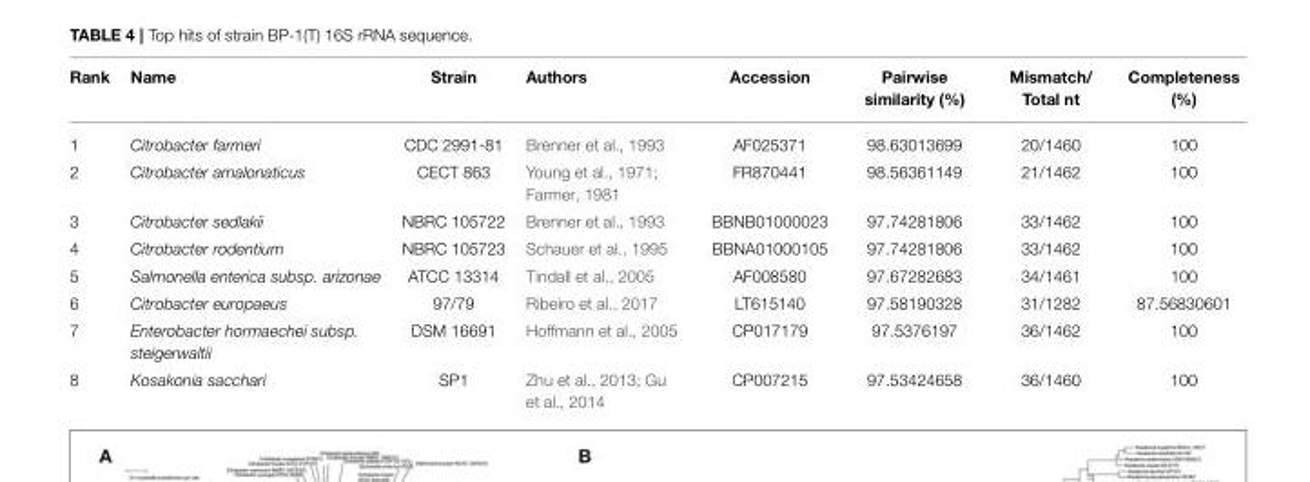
<table><thead><tr><td>Rank</td><td>Name</td><td>Strain</td><td>Authors</td><td>Accession</td><td>Pairwise similarity (%)</td><td>Mismatch/ Total nt</td><td>Completeness (%)</td></tr></thead><tbody><tr><td>1</td><td>Citrobacter farmeri</td><td>CDC 2991-81</td><td>Brenner et al., 1993</td><td>AF025371</td><td>98.63013699</td><td>20/1460</td><td>100</td></tr><tr><td>2</td><td>Citrobacter amalonaticus</td><td>CECT 863</td><td>Young et al., 1971; Farmer, 1981</td><td>FR870441</td><td>98.56361149</td><td>21/1462</td><td>100</td></tr><tr><td>3</td><td>Citrobacter sedlakii</td><td>NBRC 105722</td><td>Brenner et al., 1993</td><td>BBNB01000023</td><td>97.74281806</td><td>33/1462</td><td>100</td></tr><tr><td>4</td><td>Citrobacter rodentium</td><td>NBRC 105723</td><td>Schauer et al., 1995</td><td>BBNA01000105</td><td>97.74281806</td><td>33/1462</td><td>100</td></tr><tr><td>5</td><td>Salmonella enterica subsp. arizonae</td><td>ATCC 13314</td><td>Tindall et al., 2005</td><td>AF008580</td><td>97.67282683</td><td>34/1461</td><td>100</td></tr><tr><td>6</td><td>Citrobacter europaeus</td><td>97/79</td><td>Ribeiro et al., 2017</td><td>LT615140</td><td>97.58190328</td><td>31/1282</td><td>87.56830601</td></tr><tr><td>7</td><td>Enterobacter hormaechei subsp. steigerwaltii</td><td>DSM 16691</td><td>Hoffmann et al., 2005</td><td>CP017179</td><td>97.5376197</td><td>36/1462</td><td>100</td></tr><tr><td>8</td><td>Kosakonia sacchari</td><td>SP1</td><td>Zhu et al., 2013; Gu et al., 2014</td><td>CP007215</td><td>97.53424658</td><td>36/1460</td><td>100</td></tr></tbody></table>